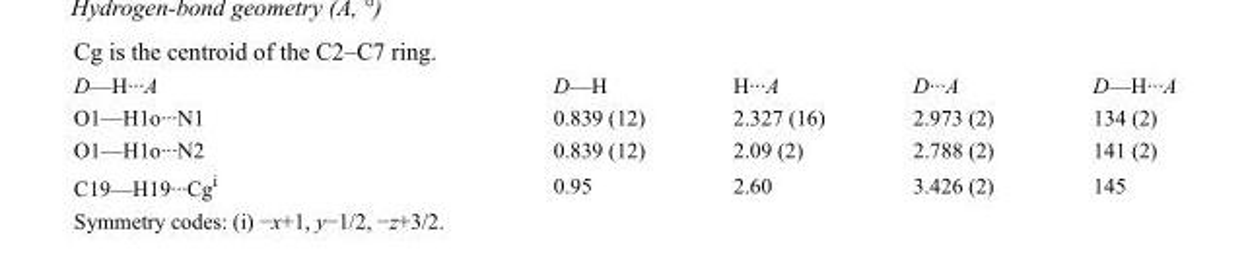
<table><tbody><tr><td>D—H···A</td><td>D—H</td><td>H···A</td><td>D···A</td><td>D—H···A</td></tr><tr><td>O1—H1o···N1</td><td>0.839 (12)</td><td>2.327 (16)</td><td>2.973 (2)</td><td>134 (2)</td></tr><tr><td>O1—H1o···N2</td><td>0.839 (12)</td><td>2.09 (2)</td><td>2.788 (2)</td><td>141 (2)</td></tr><tr><td>C19—H19···Cg<sup>i</sup></td><td>0.95</td><td>2.60</td><td>3.426 (2)</td><td>145</td></tr></tbody></table>